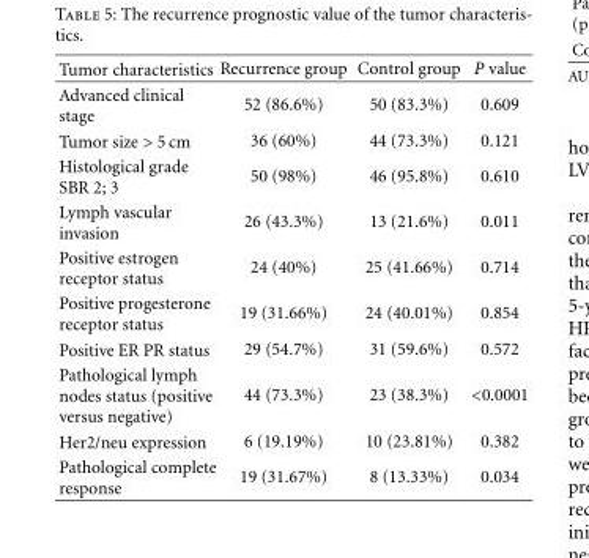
<table><thead><tr><td>Tumor characteristics</td><td>Recurrence group</td><td>Control group</td><td>P value</td></tr></thead><tbody><tr><td>Advanced clinical stage</td><td>52 (86.6%)</td><td>50 (83.3%)</td><td>0.609</td></tr><tr><td>Tumor size &gt; 5 cm</td><td>36 (60%)</td><td>44 (73.3%)</td><td>0.121</td></tr><tr><td>Histological grade SBR 2; 3</td><td>50 (98%)</td><td>46 (95.8%)</td><td>0.610</td></tr><tr><td>Lymph vascular invasion</td><td>26 (43.3%)</td><td>13 (21.6%)</td><td>0.011</td></tr><tr><td>Positive estrogen receptor status</td><td>24 (40%)</td><td>25 (41.66%)</td><td>0.714</td></tr><tr><td>Positive progesterone receptor status</td><td>19 (31.66%)</td><td>24 (40.01%)</td><td>0.854</td></tr><tr><td>Positive ER PR status</td><td>29 (54.7%)</td><td>31 (59.6%)</td><td>0.572</td></tr><tr><td>Pathological lymph nodes status (positive versus negative)</td><td>44 (73.3%)</td><td>23 (38.3%)</td><td>&lt;0.0001</td></tr><tr><td>Her2/neu expression</td><td>6 (19.19%)</td><td>10 (23.81%)</td><td>0.382</td></tr><tr><td>Pathological complete response</td><td>19 (31.67%)</td><td>8 (13.33%)</td><td>0.034</td></tr></tbody></table>